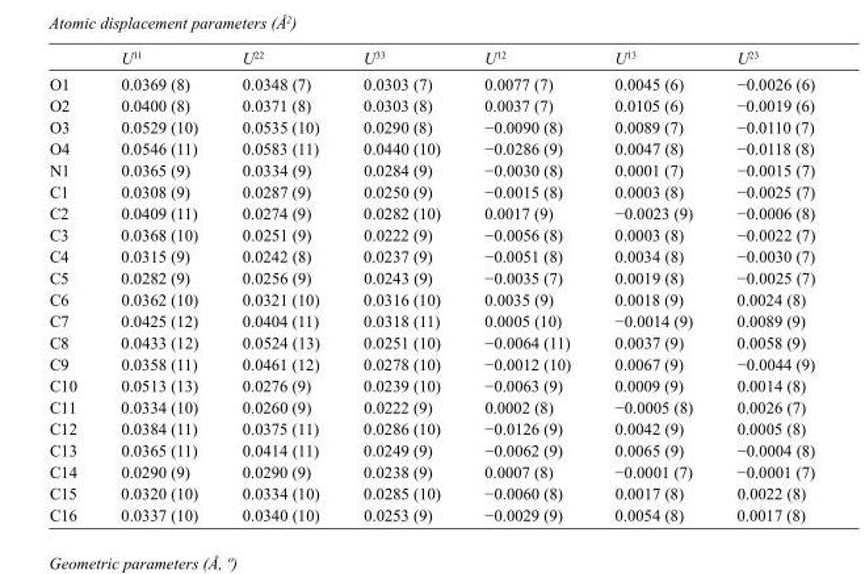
<table><thead><tr><td></td><td>U<sup>11</sup></td><td>U<sup>22</sup></td><td>U<sup>33</sup></td><td>U<sup>12</sup></td><td>U<sup>13</sup></td><td>U<sup>23</sup></td></tr></thead><tbody><tr><td>O1</td><td>0.0369 (8)</td><td>0.0348 (7)</td><td>0.0303 (7)</td><td>0.0077 (7)</td><td>0.0045 (6)</td><td>−0.0026 (6)</td></tr><tr><td>O2</td><td>0.0400 (8)</td><td>0.0371 (8)</td><td>0.0303 (8)</td><td>0.0037 (7)</td><td>0.0105 (6)</td><td>−0.0019 (6)</td></tr><tr><td>O3</td><td>0.0529 (10)</td><td>0.0535 (10)</td><td>0.0290 (8)</td><td>−0.0090 (8)</td><td>0.0089 (7)</td><td>−0.0110 (7)</td></tr><tr><td>O4</td><td>0.0546 (11)</td><td>0.0583 (11)</td><td>0.0440 (10)</td><td>−0.0286 (9)</td><td>0.0047 (8)</td><td>−0.0118 (8)</td></tr><tr><td>N1</td><td>0.0365 (9)</td><td>0.0334 (9)</td><td>0.0284 (9)</td><td>−0.0030 (8)</td><td>0.0001 (7)</td><td>−0.0015 (7)</td></tr><tr><td>C1</td><td>0.0308 (9)</td><td>0.0287 (9)</td><td>0.0250 (9)</td><td>−0.0015 (8)</td><td>0.0003 (8)</td><td>−0.0025 (7)</td></tr><tr><td>C2</td><td>0.0409 (11)</td><td>0.0274 (9)</td><td>0.0282 (10)</td><td>0.0017 (9)</td><td>−0.0023 (9)</td><td>−0.0006 (8)</td></tr><tr><td>C3</td><td>0.0368 (10)</td><td>0.0251 (9)</td><td>0.0222 (9)</td><td>−0.0056 (8)</td><td>0.0003 (8)</td><td>−0.0022 (7)</td></tr><tr><td>C4</td><td>0.0315 (9)</td><td>0.0242 (8)</td><td>0.0237 (9)</td><td>−0.0051 (8)</td><td>0.0034 (8)</td><td>−0.0030 (7)</td></tr><tr><td>C5</td><td>0.0282 (9)</td><td>0.0256 (9)</td><td>0.0243 (9)</td><td>−0.0035 (7)</td><td>0.0019 (8)</td><td>−0.0025 (7)</td></tr><tr><td>C6</td><td>0.0362 (10)</td><td>0.0321 (10)</td><td>0.0316 (10)</td><td>0.0035 (9)</td><td>0.0018 (9)</td><td>0.0024 (8)</td></tr><tr><td>C7</td><td>0.0425 (12)</td><td>0.0404 (11)</td><td>0.0318 (11)</td><td>0.0005 (10)</td><td>−0.0014 (9)</td><td>0.0089 (9)</td></tr><tr><td>C8</td><td>0.0433 (12)</td><td>0.0524 (13)</td><td>0.0251 (10)</td><td>−0.0064 (11)</td><td>0.0037 (9)</td><td>0.0058 (9)</td></tr><tr><td>C9</td><td>0.0358 (11)</td><td>0.0461 (12)</td><td>0.0278 (10)</td><td>−0.0012 (10)</td><td>0.0067 (9)</td><td>−0.0044 (9)</td></tr><tr><td>C10</td><td>0.0513 (13)</td><td>0.0276 (9)</td><td>0.0239 (10)</td><td>−0.0063 (9)</td><td>0.0009 (9)</td><td>0.0014 (8)</td></tr><tr><td>C11</td><td>0.0334 (10)</td><td>0.0260 (9)</td><td>0.0222 (9)</td><td>0.0002 (8)</td><td>−0.0005 (8)</td><td>0.0026 (7)</td></tr><tr><td>C12</td><td>0.0384 (11)</td><td>0.0375 (11)</td><td>0.0286 (10)</td><td>−0.0126 (9)</td><td>0.0042 (9)</td><td>0.0005 (8)</td></tr><tr><td>C13</td><td>0.0365 (11)</td><td>0.0414 (11)</td><td>0.0249 (9)</td><td>−0.0062 (9)</td><td>0.0065 (9)</td><td>−0.0004 (8)</td></tr><tr><td>C14</td><td>0.0290 (9)</td><td>0.0290 (9)</td><td>0.0238 (9)</td><td>0.0007 (8)</td><td>−0.0001 (7)</td><td>−0.0001 (7)</td></tr><tr><td>C15</td><td>0.0320 (10)</td><td>0.0334 (10)</td><td>0.0285 (10)</td><td>−0.0060 (8)</td><td>0.0017 (8)</td><td>0.0022 (8)</td></tr><tr><td>C16</td><td>0.0337 (10)</td><td>0.0340 (10)</td><td>0.0253 (9)</td><td>−0.0029 (9)</td><td>0.0054 (8)</td><td>0.0017 (8)</td></tr></tbody></table>